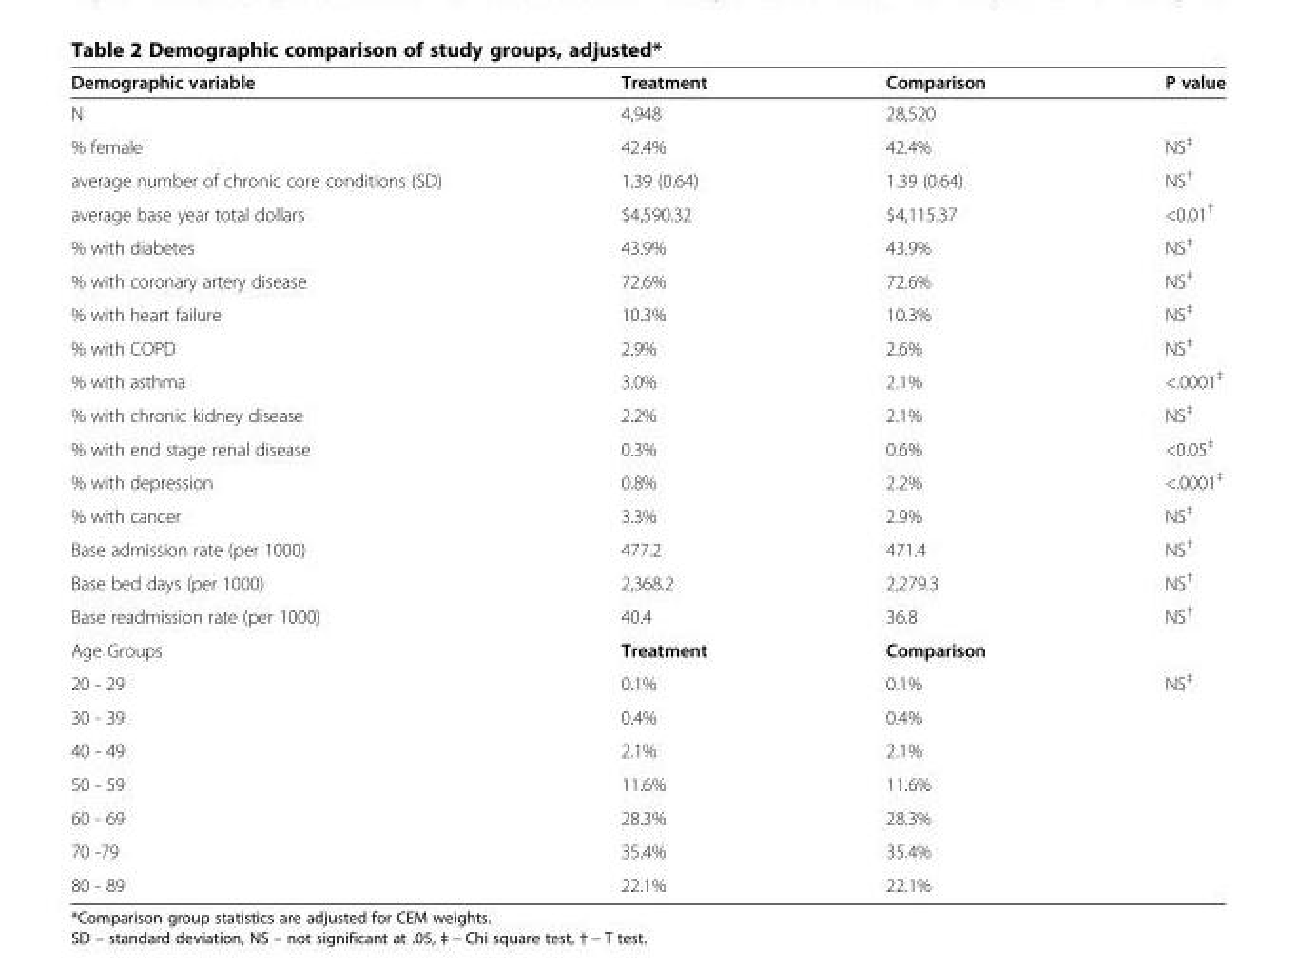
<table><thead><tr><td>Demographic variable</td><td>Treatment</td><td>Comparison</td><td>P value</td></tr></thead><tbody><tr><td>N</td><td>4,948</td><td>28,520</td><td></td></tr><tr><td>% female</td><td>42.4%</td><td>42.4%</td><td>NS<sup>‡</sup></td></tr><tr><td>average number of chronic core conditions (SD)</td><td>1.39 (0.64)</td><td>1.39 (0.64)</td><td>NS<sup>†</sup></td></tr><tr><td>average base year total dollars</td><td>$4,590.32</td><td>$4,115.37</td><td>&lt;0.01<sup>†</sup></td></tr><tr><td>% with diabetes</td><td>43.9%</td><td>43.9%</td><td>NS<sup>‡</sup></td></tr><tr><td>% with coronary artery disease</td><td>72.6%</td><td>72.6%</td><td>NS<sup>‡</sup></td></tr><tr><td>% with heart failure</td><td>10.3%</td><td>10.3%</td><td>NS<sup>‡</sup></td></tr><tr><td>% with COPD</td><td>2.9%</td><td>2.6%</td><td>NS<sup>‡</sup></td></tr><tr><td>% with asthma</td><td>3.0%</td><td>2.1%</td><td>&lt;.0001<sup>‡</sup></td></tr><tr><td>% with chronic kidney disease</td><td>2.2%</td><td>2.1%</td><td>NS<sup>‡</sup></td></tr><tr><td>% with end stage renal disease</td><td>0.3%</td><td>0.6%</td><td>&lt;0.05<sup>‡</sup></td></tr><tr><td>% with depression</td><td>0.8%</td><td>2.2%</td><td>&lt;.0001<sup>‡</sup></td></tr><tr><td>% with cancer</td><td>3.3%</td><td>2.9%</td><td>NS<sup>‡</sup></td></tr><tr><td>Base admission rate (per 1000)</td><td>477.2</td><td>471.4</td><td>NS<sup>†</sup></td></tr><tr><td>Base bed days (per 1000)</td><td>2,368.2</td><td>2,279.3</td><td>NS<sup>†</sup></td></tr><tr><td>Base readmission rate (per 1000)</td><td>40.4</td><td>36.8</td><td>NS<sup>†</sup></td></tr><tr><td>Age Groups</td><td>Treatment</td><td>Comparison</td><td></td></tr><tr><td>20 - 29</td><td>0.1%</td><td>0.1%</td><td rowspan="7">NS<sup>‡</sup></td></tr><tr><td>30 - 39</td><td>0.4%</td><td>0.4%</td></tr><tr><td>40 - 49</td><td>2.1%</td><td>2.1%</td></tr><tr><td>50 - 59</td><td>11.6%</td><td>11.6%</td></tr><tr><td>60 - 69</td><td>28.3%</td><td>28.3%</td></tr><tr><td>70 -79</td><td>35.4%</td><td>35.4%</td></tr><tr><td>80 - 89</td><td>22.1%</td><td>22.1%</td></tr></tbody></table>